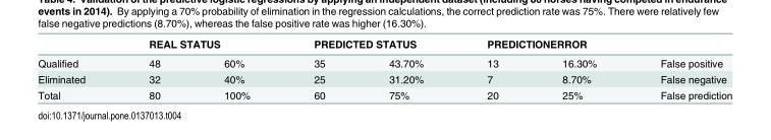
<table><thead><tr><td rowspan="2">Qualified</td><td colspan="2">REAL STATUS</td><td colspan="2">PREDICTED STATUS</td><td colspan="3">PREDICTIONERROR</td></tr><tr><td>48</td><td>60%</td><td>35</td><td>43.70%</td><td>13</td><td>16.30%</td><td>False positive</td></tr></thead><tbody><tr><td>Eliminated</td><td>32</td><td>40%</td><td>25</td><td>31.20%</td><td>7</td><td>8.70%</td><td>False negative</td></tr><tr><td>Total</td><td>80</td><td>100%</td><td>60</td><td>75%</td><td>20</td><td>25%</td><td>False prediction</td></tr></tbody></table>